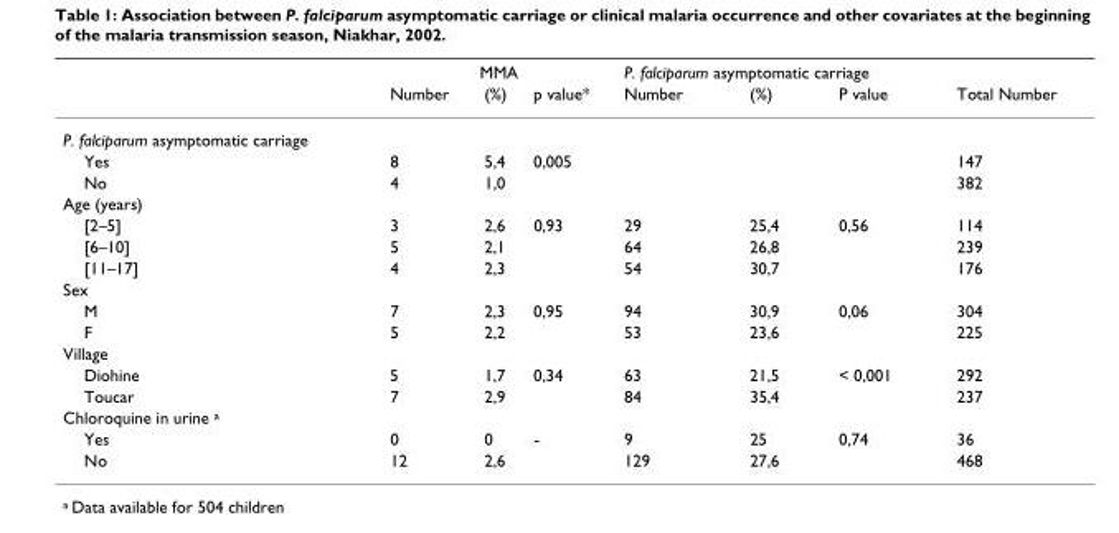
<table><thead><tr><td rowspan="2"></td><td colspan="3">MMA</td><td colspan="3">P. falciparum asymptomatic carriage</td><td rowspan="2">Total Number</td></tr><tr><td>Number</td><td>(%)</td><td>p value*</td><td>Number</td><td>(%)</td><td>P value</td></tr></thead><tbody><tr><td colspan="8">P. falciparum asymptomatic carriage</td></tr><tr><td>Yes</td><td>8</td><td>5,4</td><td>0,005</td><td></td><td></td><td></td><td>147</td></tr><tr><td>No</td><td>4</td><td>1,0</td><td></td><td></td><td></td><td></td><td>382</td></tr><tr><td colspan="8">Age (years)</td></tr><tr><td>[2–5]</td><td>3</td><td>2,6</td><td>0,93</td><td>29</td><td>25,4</td><td>0,56</td><td>114</td></tr><tr><td>[6–10]</td><td>5</td><td>2,1</td><td></td><td>64</td><td>26,8</td><td></td><td>239</td></tr><tr><td>[11–17]</td><td>4</td><td>2,3</td><td></td><td>54</td><td>30,7</td><td></td><td>176</td></tr><tr><td colspan="8">Sex</td></tr><tr><td>M</td><td>7</td><td>2,3</td><td>0,95</td><td>94</td><td>30,9</td><td>0,06</td><td>304</td></tr><tr><td>F</td><td>5</td><td>2,2</td><td></td><td>53</td><td>23,6</td><td></td><td>225</td></tr><tr><td colspan="8">Village</td></tr><tr><td>Diohine</td><td>5</td><td>1,7</td><td>0,34</td><td>63</td><td>21,5</td><td>&lt; 0,001</td><td>292</td></tr><tr><td>Toucar</td><td>7</td><td>2,9</td><td></td><td>84</td><td>35,4</td><td></td><td>237</td></tr><tr><td colspan="8">Chloroquine in urine <sup>a</sup></td></tr><tr><td>Yes</td><td>0</td><td>0</td><td>-</td><td>9</td><td>25</td><td>0,74</td><td>36</td></tr><tr><td>No</td><td>12</td><td>2,6</td><td></td><td>129</td><td>27,6</td><td></td><td>468</td></tr></tbody></table>